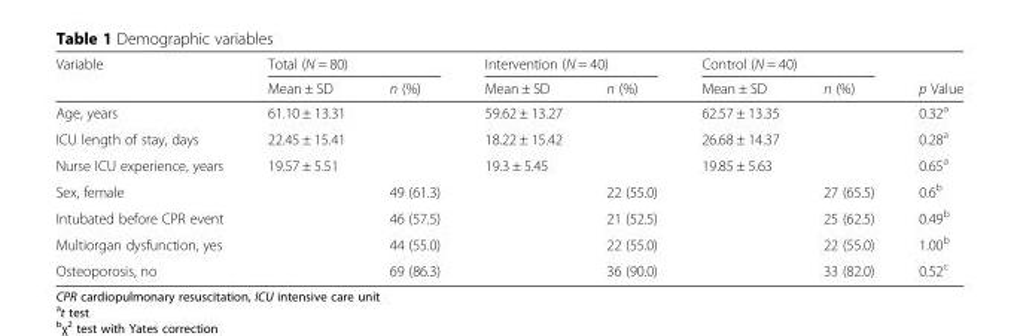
<table><thead><tr><td rowspan="2">Variable</td><td colspan="2">Total (N = 80)</td><td colspan="2">Intervention (N = 40)</td><td colspan="2">Control (N = 40)</td><td rowspan="2">p Value</td></tr><tr><td>Mean ± SD</td><td>n (%)</td><td>Mean ± SD</td><td>n (%)</td><td>Mean ± SD</td><td>n (%)</td></tr></thead><tbody><tr><td>Age, years</td><td>61.10 ± 13.31</td><td></td><td>59.62 ± 13.27</td><td></td><td>62.57 ± 13.35</td><td></td><td>0.32<sup>a</sup></td></tr><tr><td>ICU length of stay, days</td><td>22.45 ± 15.41</td><td></td><td>18.22 ± 15.42</td><td></td><td>26.68 ± 14.37</td><td></td><td>0.28<sup>a</sup></td></tr><tr><td>Nurse ICU experience, years</td><td>19.57 ± 5.51</td><td></td><td>19.3 ± 5.45</td><td></td><td>19.85 ± 5.63</td><td></td><td>0.65<sup>a</sup></td></tr><tr><td>Sex, female</td><td></td><td>49 (61.3)</td><td></td><td>22 (55.0)</td><td></td><td>27 (65.5)</td><td>0.6<sup>b</sup></td></tr><tr><td>Intubated before CPR event</td><td></td><td>46 (57.5)</td><td></td><td>21 (52.5)</td><td></td><td>25 (62.5)</td><td>0.49<sup>b</sup></td></tr><tr><td>Multiorgan dysfunction, yes</td><td></td><td>44 (55.0)</td><td></td><td>22 (55.0)</td><td></td><td>22 (55.0)</td><td>1.00<sup>b</sup></td></tr><tr><td>Osteoporosis, no</td><td></td><td>69 (86.3)</td><td></td><td>36 (90.0)</td><td></td><td>33 (82.0)</td><td>0.52<sup>c</sup></td></tr></tbody></table>